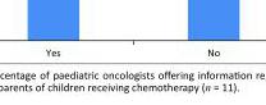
<table><tbody><tr><td>Yes</td><td>No</td></tr></tbody></table>